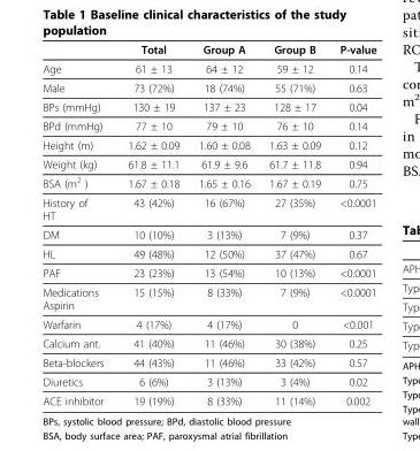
<table><thead><tr><td></td><td>Total</td><td>Group A</td><td>Group B</td><td>P-value</td></tr></thead><tbody><tr><td>Age</td><td>61 ± 13</td><td>64 ± 12</td><td>59 ± 12</td><td>0.14</td></tr><tr><td>Male</td><td>73 (72%)</td><td>18 (74%)</td><td>55 (71%)</td><td>0.63</td></tr><tr><td>BPs (mmHg)</td><td>130 ± 19</td><td>137 ± 23</td><td>128 ± 17</td><td>0.04</td></tr><tr><td>BPd (mmHg)</td><td>77 ± 10</td><td>79 ± 10</td><td>76 ± 10</td><td>0.14</td></tr><tr><td>Height (m)</td><td>1.62 ± 0.09</td><td>1.60 ± 0.08</td><td>1.63 ± 0.09</td><td>0.12</td></tr><tr><td>Weight (kg)</td><td>61.8 ± 11.1</td><td>61.9 ± 9.6</td><td>61.7 ± 11.8</td><td>0.94</td></tr><tr><td>BSA (m<sup>2</sup> )</td><td>1.67 ± 0.18</td><td>1.65 ± 0.16</td><td>1.67 ± 0.19</td><td>0.75</td></tr><tr><td>History of HT</td><td>43 (42%)</td><td>16 (67%)</td><td>27 (35%)</td><td>&lt;0.0001</td></tr><tr><td>DM</td><td>10 (10%)</td><td>3 (13%)</td><td>7 (9%)</td><td>0.37</td></tr><tr><td>HL</td><td>49 (48%)</td><td>12 (50%)</td><td>37 (47%)</td><td>0.67</td></tr><tr><td>PAF</td><td>23 (23%)</td><td>13 (54%)</td><td>10 (13%)</td><td>&lt;0.0001</td></tr><tr><td>Medications Aspirin</td><td>15 (15%)</td><td>8 (33%)</td><td>7 (9%)</td><td>&lt;0.0001</td></tr><tr><td>Warfarin</td><td>4 (17%)</td><td>4 (17%)</td><td>0</td><td>&lt;0.001</td></tr><tr><td>Calcium ant.</td><td>41 (40%)</td><td>11 (46%)</td><td>30 (38%)</td><td>0.25</td></tr><tr><td>Beta-blockers</td><td>44 (43%)</td><td>11 (46%)</td><td>33 (42%)</td><td>0.57</td></tr><tr><td>Diuretics</td><td>6 (6%)</td><td>3 (13%)</td><td>3 (4%)</td><td>0.02</td></tr><tr><td>ACE inhibitor</td><td>19 (19%)</td><td>8 (33%)</td><td>11 (14%)</td><td>0.002</td></tr></tbody></table>